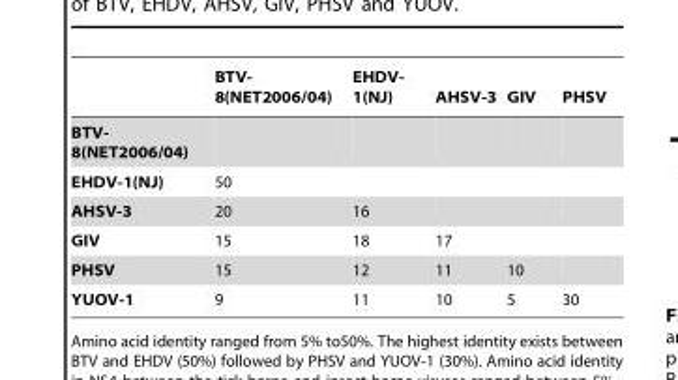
<table><thead><tr><td></td><td>BTV- 8(NET2006/04)</td><td>EHDV- 1(NJ)</td><td>AHSV-3</td><td>GIV</td><td>PHSV</td></tr></thead><tbody><tr><td colspan="6">BTV- 8(NET2006/04)</td></tr><tr><td>EHDV-1(NJ)</td><td>50</td><td></td><td></td><td></td><td></td></tr><tr><td>AHSV-3</td><td>20</td><td>16</td><td></td><td></td><td></td></tr><tr><td>GIV</td><td>15</td><td>18</td><td>17</td><td></td><td></td></tr><tr><td>PHSV</td><td>15</td><td>12</td><td>11</td><td>10</td><td></td></tr><tr><td>YUOV-1</td><td>9</td><td>11</td><td>10</td><td>5</td><td>30</td></tr></tbody></table>